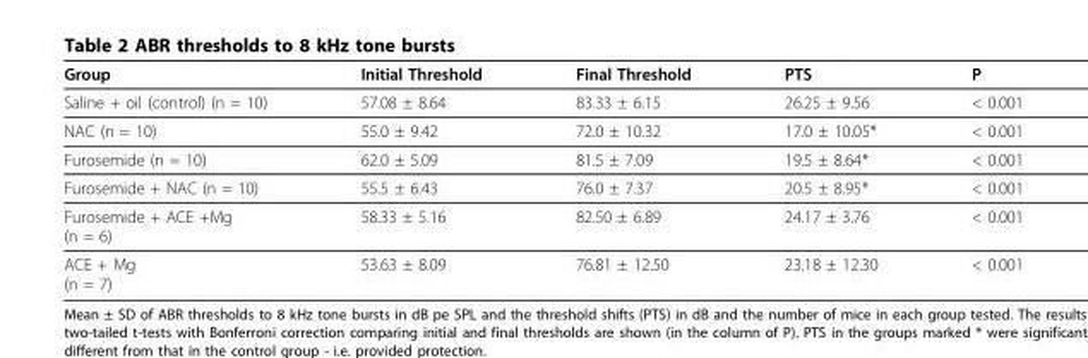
<table><thead><tr><td>Group</td><td>Initial Threshold</td><td>Final Threshold</td><td>PTS</td><td>P</td></tr></thead><tbody><tr><td>Saline + oil (control) (n = 10)</td><td>57.08 ± 8.64</td><td>83.33 ± 6.15</td><td>26.25 ± 9.56</td><td>&lt; 0.001</td></tr><tr><td>NAC (n = 10)</td><td>55.0 ± 9.42</td><td>72.0 ± 10.32</td><td>17.0 ± 10.05*</td><td>&lt; 0.001</td></tr><tr><td>Furosemide (n = 10)</td><td>62.0 ± 5.09</td><td>81.5 ± 7.09</td><td>19.5 ± 8.64*</td><td>&lt; 0.001</td></tr><tr><td>Furosemide + NAC (n = 10)</td><td>55.5 ± 6.43</td><td>76.0 ± 7.37</td><td>20.5 ± 8.95*</td><td>&lt; 0.001</td></tr><tr><td>Furosemide + ACE +Mg (n = 6)</td><td>58.33 ± 5.16</td><td>82.50 ± 6.89</td><td>24.17 ± 3.76</td><td>&lt; 0.001</td></tr><tr><td>ACE + Mg (n = 7)</td><td>53.63 ± 8.09</td><td>76.81 ± 12.50</td><td>23.18 ± 12.30</td><td>&lt; 0.001</td></tr></tbody></table>